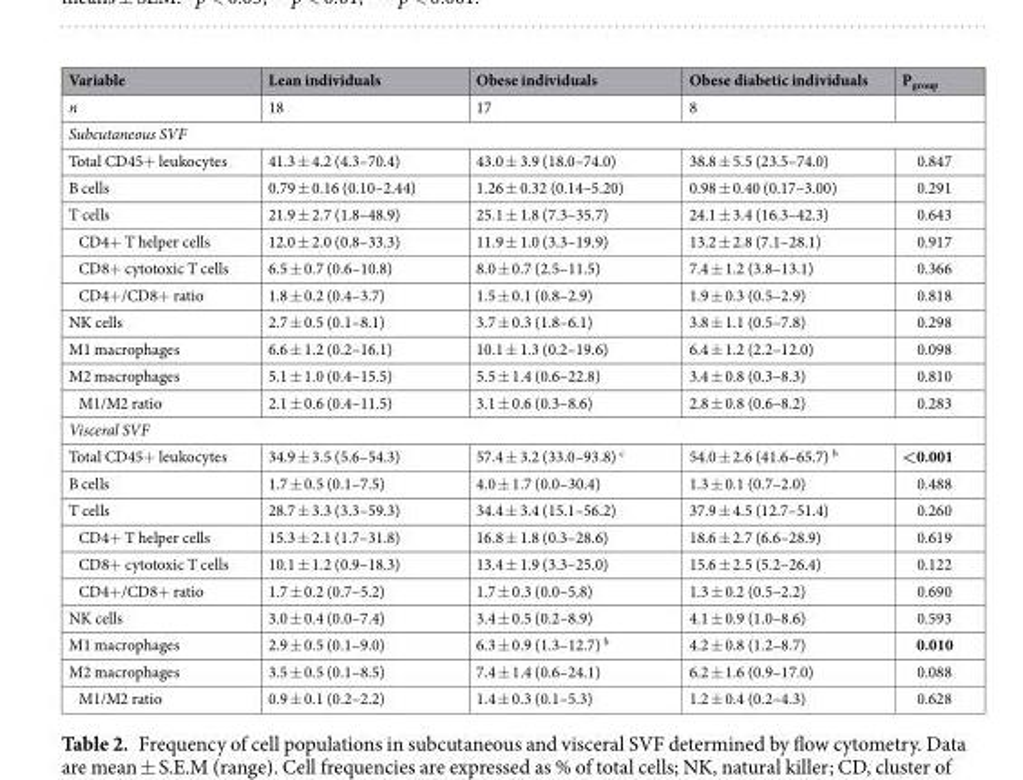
<table><thead><tr><td>Variable</td><td>Lean individuals</td><td>Obese individuals</td><td>Obese diabetic individuals</td><td>P<sub>group</sub></td></tr></thead><tbody><tr><td>n</td><td>18</td><td>17</td><td>8</td><td></td></tr><tr><td colspan="5">Subcutaneous SVF</td></tr><tr><td>Total CD45+ leukocytes</td><td>41.3 ± 4.2 (4.3–70.4)</td><td>43.0 ± 3.9 (18.0–74.0)</td><td>38.8 ± 5.5 (23.5–74.0)</td><td>0.847</td></tr><tr><td>B cells</td><td>0.79 ± 0.16 (0.10–2.44)</td><td>1.26 ± 0.32 (0.14–5.20)</td><td>0.98 ± 0.40 (0.17–3.00)</td><td>0.291</td></tr><tr><td>T cells</td><td>21.9 ± 2.7 (1.8–48.9)</td><td>25.1 ± 1.8 (7.3–35.7)</td><td>24.1 ± 3.4 (16.3–42.3)</td><td>0.643</td></tr><tr><td>CD4+ T helper cells</td><td>12.0 ± 2.0 (0.8–33.3)</td><td>11.9 ± 1.0 (3.3–19.9)</td><td>13.2 ± 2.8 (7.1–28.1)</td><td>0.917</td></tr><tr><td>CD8+ cytotoxic T cells</td><td>6.5 ± 0.7 (0.6–10.8)</td><td>8.0 ± 0.7 (2.5–11.5)</td><td>7.4 ± 1.2 (3.8–13.1)</td><td>0.366</td></tr><tr><td>CD4+/CD8+ ratio</td><td>1.8 ± 0.2 (0.4–3.7)</td><td>1.5 ± 0.1 (0.8–2.9)</td><td>1.9 ± 0.3 (0.5–2.9)</td><td>0.818</td></tr><tr><td>NK cells</td><td>2.7 ± 0.5 (0.1–8.1)</td><td>3.7 ± 0.3 (1.8–6.1)</td><td>3.8 ± 1.1 (0.5–7.8)</td><td>0.298</td></tr><tr><td>M1 macrophages</td><td>6.6 ± 1.2 (0.2–16.1)</td><td>10.1 ± 1.3 (0.2–19.6)</td><td>6.4 ± 1.2 (2.2–12.0)</td><td>0.098</td></tr><tr><td>M2 macrophages</td><td>5.1 ± 1.0 (0.4–15.5)</td><td>5.5 ± 1.4 (0.6–22.8)</td><td>3.4 ± 0.8 (0.3–8.3)</td><td>0.810</td></tr><tr><td>M1/M2 ratio</td><td>2.1 ± 0.6 (0.4–11.5)</td><td>3.1 ± 0.6 (0.3–8.6)</td><td>2.8 ± 0.8 (0.6–8.2)</td><td>0.283</td></tr><tr><td colspan="5">Visceral SVF</td></tr><tr><td>Total CD45+ leukocytes</td><td>34.9 ± 3.5 (5.6–54.3)</td><td>57.4 ± 3.2 (33.0–93.8) <sup>c</sup></td><td>54.0 ± 2.6 (41.6–65.7) <sup>b</sup></td><td>&lt;0.001</td></tr><tr><td>B cells</td><td>1.7 ± 0.5 (0.1–7.5)</td><td>4.0 ± 1.7 (0.0–30.4)</td><td>1.3 ± 0.1 (0.7–2.0)</td><td>0.488</td></tr><tr><td>T cells</td><td>28.7 ± 3.3 (3.3–59.3)</td><td>34.4 ± 3.4 (15.1–56.2)</td><td>37.9 ± 4.5 (12.7–51.4)</td><td>0.260</td></tr><tr><td>CD4+ T helper cells</td><td>15.3 ± 2.1 (1.7–31.8)</td><td>16.8 ± 1.8 (0.3–28.6)</td><td>18.6 ± 2.7 (6.6–28.9)</td><td>0.619</td></tr><tr><td>CD8+ cytotoxic T cells</td><td>10.1 ± 1.2 (0.9–18.3)</td><td>13.4 ± 1.9 (3.3–25.0)</td><td>15.6 ± 2.5 (5.2–26.4)</td><td>0.122</td></tr><tr><td>CD4+/CD8+ ratio</td><td>1.7 ± 0.2 (0.7–5.2)</td><td>1.7 ± 0.3 (0.0–5.8)</td><td>1.3 ± 0.2 (0.5–2.2)</td><td>0.690</td></tr><tr><td>NK cells</td><td>3.0 ± 0.4 (0.0–7.4)</td><td>3.4 ± 0.5 (0.2–8.9)</td><td>4.1 ± 0.9 (1.0–8.6)</td><td>0.593</td></tr><tr><td>M1 macrophages</td><td>2.9 ± 0.5 (0.1–9.0)</td><td>6.3 ± 0.9 (1.3–12.7) <sup>b</sup></td><td>4.2 ± 0.8 (1.2–8.7)</td><td>0.010</td></tr><tr><td>M2 macrophages</td><td>3.5 ± 0.5 (0.1–8.5)</td><td>7.4 ± 1.4 (0.6–24.1)</td><td>6.2 ± 1.6 (0.9–17.0)</td><td>0.088</td></tr><tr><td>M1/M2 ratio</td><td>0.9 ± 0.1 (0.2–2.2)</td><td>1.4 ± 0.3 (0.1–5.3)</td><td>1.2 ± 0.4 (0.2–4.3)</td><td>0.628</td></tr></tbody></table>